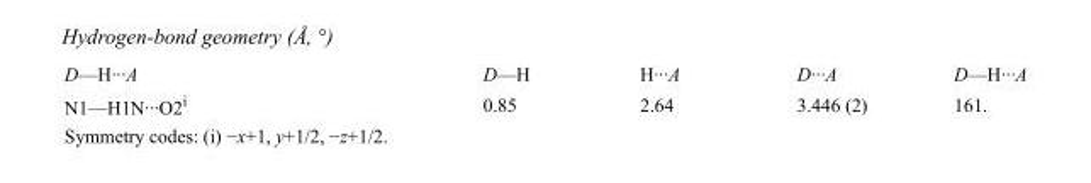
<table><tbody><tr><td>D—H···A</td><td>D—H</td><td>H···A</td><td>D···A</td><td>D—H···A</td></tr><tr><td>N1—H1N···O2<sup>i</sup></td><td>0.85</td><td>2.64</td><td>3.446 (2)</td><td>161.</td></tr></tbody></table>